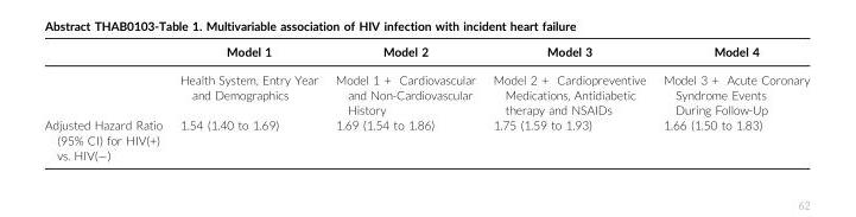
<table><thead><tr><td></td><td>Model 1</td><td>Model 2</td><td>Model 3</td><td>Model 4</td></tr></thead><tbody><tr><td></td><td>Health System, Entry Year and Demographics</td><td>Model 1 + Cardiovascular and Non-Cardiovascular History</td><td>Model 2 + Cardiopreventive Medications, Antidiabetic therapy and NSAIDs</td><td>Model 3 + Acute Coronary Syndrome Events During Follow-Up</td></tr><tr><td>Adjusted Hazard Ratio (95% CI) for HIV(+) vs. HIV(−)</td><td>1.54 (1.40 to 1.69)</td><td>1.69 (1.54 to 1.86)</td><td>1.75 (1.59 to 1.93)</td><td>1.66 (1.50 to 1.83)</td></tr></tbody></table>